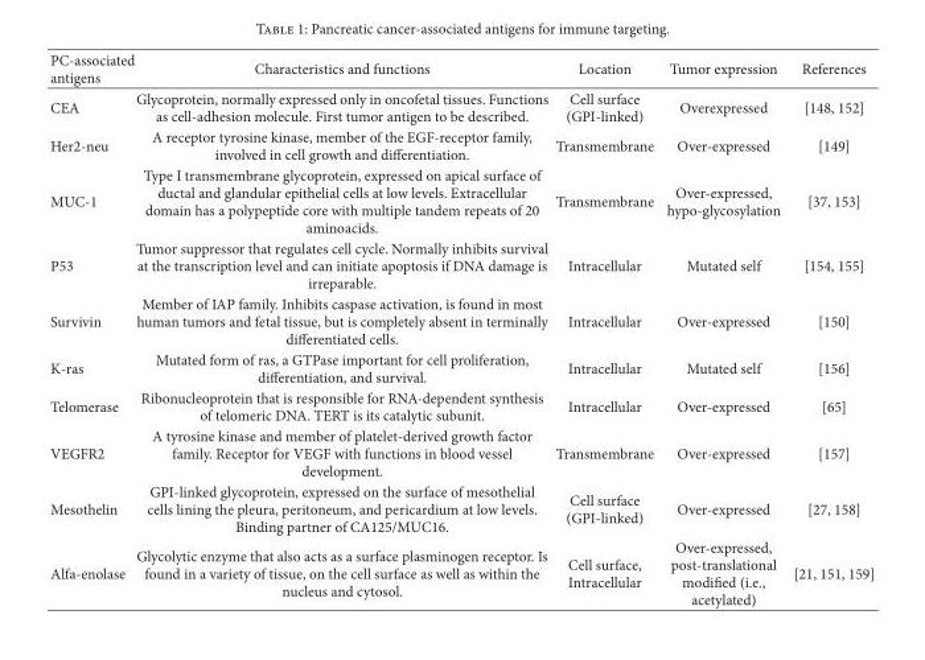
<table><thead><tr><td>PC-associated antigens</td><td>Characteristics and functions</td><td>Location</td><td>Tumor expression</td><td>References</td></tr></thead><tbody><tr><td>CEA</td><td>Glycoprotein, normally expressed only in oncofetal tissues. Functions as cell-adhesion molecule. First tumor antigen to be described.</td><td>Cell surface (GPI-linked)</td><td>Overexpressed</td><td>[148, 152]</td></tr><tr><td>Her2-neu</td><td>A receptor tyrosine kinase, member of the EGF-receptor family, involved in cell growth and differentiation.</td><td>Transmembrane</td><td>Over-expressed</td><td>[149]</td></tr><tr><td>MUC-1</td><td>Type I transmembrane glycoprotein, expressed on apical surface of ductal and glandular epithelial cells at low levels. Extracellular domain has a polypeptide core with multiple tandem repeats of 20 aminoacids.</td><td>Transmembrane</td><td>Over-expressed, hypo-glycosylation</td><td>[37, 153]</td></tr><tr><td>P53</td><td>Tumor suppressor that regulates cell cycle. Normally inhibits survival at the transcription level and can initiate apoptosis if DNA damage is irreparable.</td><td>Intracellular</td><td>Mutated self</td><td>[154, 155]</td></tr><tr><td>Survivin</td><td>Member of IAP family. Inhibits caspase activation, is found in most human tumors and fetal tissue, but is completely absent in terminally differentiated cells.</td><td>Intracellular</td><td>Over-expressed</td><td>[150]</td></tr><tr><td>K-ras</td><td>Mutated form of ras, a GTPase important for cell proliferation, differentiation, and survival.</td><td>Intracellular</td><td>Mutated self</td><td>[156]</td></tr><tr><td>Telomerase</td><td>Ribonucleoprotein that is responsible for RNA-dependent synthesis of telomeric DNA. TERT is its catalytic subunit.</td><td>Intracellular</td><td>Over-expressed</td><td>[65]</td></tr><tr><td>VEGFR2</td><td>A tyrosine kinase and member of platelet-derived growth factor family. Receptor for VEGF with functions in blood vessel development.</td><td>Transmembrane</td><td>Over-expressed</td><td>[157]</td></tr><tr><td>Mesothelin</td><td>GPI-linked glycoprotein, expressed on the surface of mesothelial cells lining the pleura, peritoneum, and pericardium at low levels. Binding partner of CA125/MUC16.</td><td>Cell surface (GPI-linked)</td><td>Over-expressed</td><td>[27, 158]</td></tr><tr><td>Alfa-enolase</td><td>Glycolytic enzyme that also acts as a surface plasminogen receptor. Is found in a variety of tissue, on the cell surface as well as within the nucleus and cytosol.</td><td>Cell surface, Intracellular</td><td>Over-expressed, post-translational modi�ed (i.e., acetylated)</td><td>[21, 151, 159]</td></tr></tbody></table>